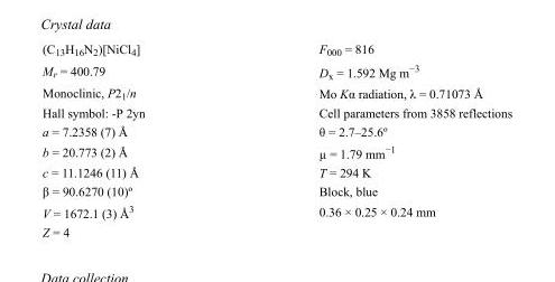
<table><tbody><tr><td>(C<sub>13</sub>H<sub>16</sub>N<sub>2</sub>)[NiCl<sub>4</sub>]</td><td>F000 = 816</td></tr><tr><td>M<sub>r</sub> = 400.79</td><td>D<sub>x</sub> = 1.592 Mg m<sup>−3</sup></td></tr><tr><td>Monoclinic, P2<sub>1</sub>/n</td><td>Mo Kα radiation, λ = 0.71073 Å</td></tr><tr><td>Hall symbol: -P 2yn</td><td>Cell parameters from 3858 reflections</td></tr><tr><td>a = 7.2358 (7) Å</td><td>θ = 2.7–25.6º</td></tr><tr><td>b = 20.773 (2) Å</td><td>µ = 1.79 mm<sup>−1</sup></td></tr><tr><td>c = 11.1246 (11) Å</td><td>T = 294 K</td></tr><tr><td>β = 90.6270 (10)º</td><td>Block, blue</td></tr><tr><td>V = 1672.1 (3) Å<sup>3</sup></td><td>0.36 × 0.25 × 0.24 mm</td></tr><tr><td>Z = 4</td><td></td></tr></tbody></table>